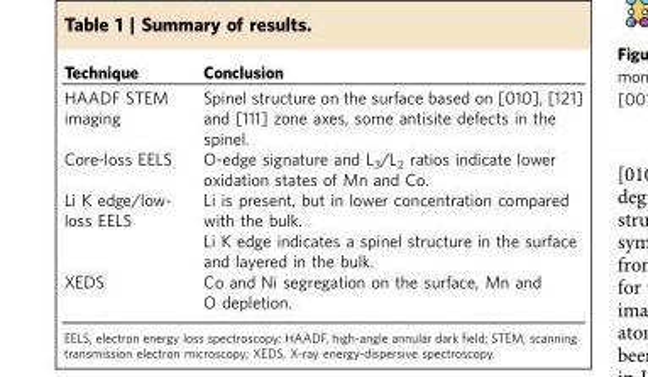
<table><thead><tr><td>Technique</td><td>Conclusion</td></tr></thead><tbody><tr><td>HAADF STEM imaging</td><td>Spinel structure on the surface based on [010], [121] and [111] zone axes, some antisite defects in the spinel.</td></tr><tr><td>Core-loss EELS</td><td>O-edge signature and L<sub>3</sub>/L<sub>2</sub> ratios indicate lower oxidation states of Mn and Co.</td></tr><tr><td>Li K edge/low- loss EELS</td><td>Li is present, but in lower concentration compared with the bulk. Li K edge indicates a spinel structure in the surface and layered in the bulk.</td></tr><tr><td>XEDS</td><td>Co and Ni segregation on the surface, Mn and O depletion.</td></tr></tbody></table>